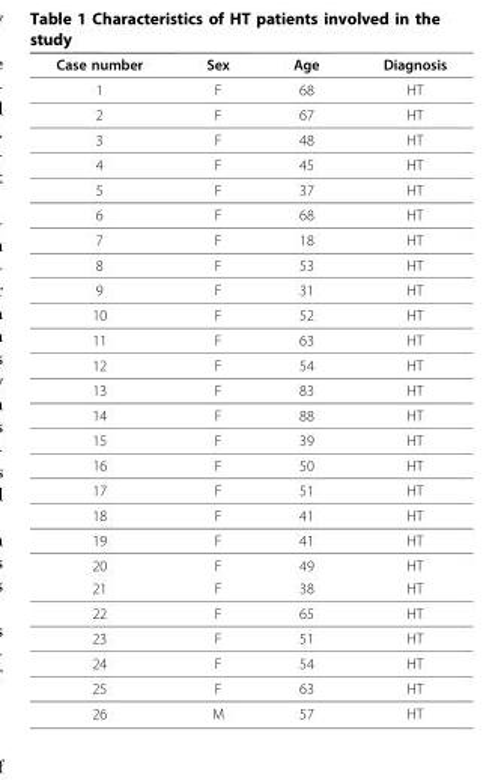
<table><thead><tr><td>Case number</td><td>Sex</td><td>Age</td><td>Diagnosis</td></tr></thead><tbody><tr><td>1</td><td>F</td><td>68</td><td>HT</td></tr><tr><td>2</td><td>F</td><td>67</td><td>HT</td></tr><tr><td>3</td><td>F</td><td>48</td><td>HT</td></tr><tr><td>4</td><td>F</td><td>45</td><td>HT</td></tr><tr><td>5</td><td>F</td><td>37</td><td>HT</td></tr><tr><td>6</td><td>F</td><td>68</td><td>HT</td></tr><tr><td>7</td><td>F</td><td>18</td><td>HT</td></tr><tr><td>8</td><td>F</td><td>53</td><td>HT</td></tr><tr><td>9</td><td>F</td><td>31</td><td>HT</td></tr><tr><td>10</td><td>F</td><td>52</td><td>HT</td></tr><tr><td>11</td><td>F</td><td>63</td><td>HT</td></tr><tr><td>12</td><td>F</td><td>54</td><td>HT</td></tr><tr><td>13</td><td>F</td><td>83</td><td>HT</td></tr><tr><td>14</td><td>F</td><td>88</td><td>HT</td></tr><tr><td>15</td><td>F</td><td>39</td><td>HT</td></tr><tr><td>16</td><td>F</td><td>50</td><td>HT</td></tr><tr><td>17</td><td>F</td><td>51</td><td>HT</td></tr><tr><td>18</td><td>F</td><td>41</td><td>HT</td></tr><tr><td>19</td><td>F</td><td>41</td><td>HT</td></tr><tr><td>20</td><td>F</td><td>49</td><td>HT</td></tr><tr><td>21</td><td>F</td><td>38</td><td>HT</td></tr><tr><td>22</td><td>F</td><td>65</td><td>HT</td></tr><tr><td>23</td><td>F</td><td>51</td><td>HT</td></tr><tr><td>24</td><td>F</td><td>54</td><td>HT</td></tr><tr><td>25</td><td>F</td><td>63</td><td>HT</td></tr><tr><td>26</td><td>M</td><td>57</td><td>HT</td></tr></tbody></table>